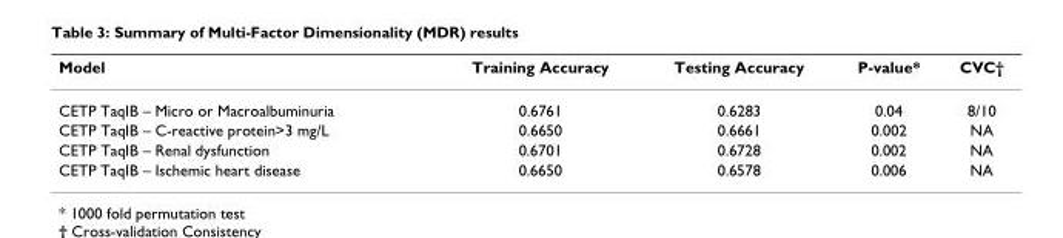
<table><thead><tr><td>Model</td><td>Training Accuracy</td><td>Testing Accuracy</td><td>P-value*</td><td>CVC†</td></tr></thead><tbody><tr><td>CETP TaqIB – Micro or Macroalbuminuria</td><td>0.6761</td><td>0.6283</td><td>0.04</td><td>8/10</td></tr><tr><td>CETP TaqIB – C-reactive protein&gt;3 mg/L</td><td>0.6650</td><td>0.6661</td><td>0.002</td><td>NA</td></tr><tr><td>CETP TaqIB – Renal dysfunction</td><td>0.6701</td><td>0.6728</td><td>0.002</td><td>NA</td></tr><tr><td>CETP TaqIB – Ischemic heart disease</td><td>0.6650</td><td>0.6578</td><td>0.006</td><td>NA</td></tr></tbody></table>